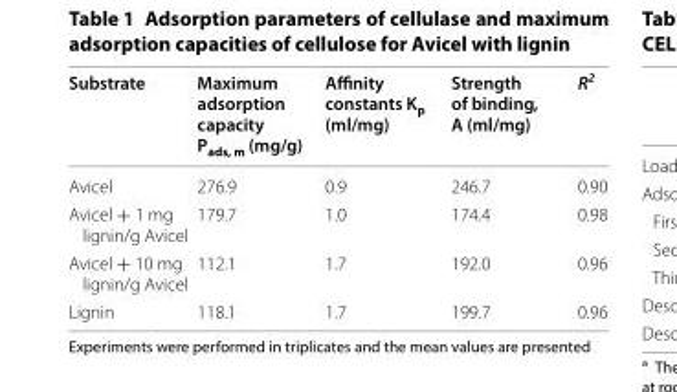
<table><thead><tr><td>Substrate</td><td>Maximum adsorption capacity P<sub>ads, m</sub> (mg/g)</td><td>Affinity constants K<sub>p</sub> (ml/mg)</td><td>Strength of binding, A (ml/mg)</td><td>R<sup>2</sup></td></tr></thead><tbody><tr><td>Avicel</td><td>276.9</td><td>0.9</td><td>246.7</td><td>0.90</td></tr><tr><td>Avicel + 1 mg lignin/g Avicel</td><td>179.7</td><td>1.0</td><td>174.4</td><td>0.98</td></tr><tr><td>Avicel + 10 mg lignin/g Avicel</td><td>112.1</td><td>1.7</td><td>192.0</td><td>0.96</td></tr><tr><td>Lignin</td><td>118.1</td><td>1.7</td><td>199.7</td><td>0.96</td></tr></tbody></table>